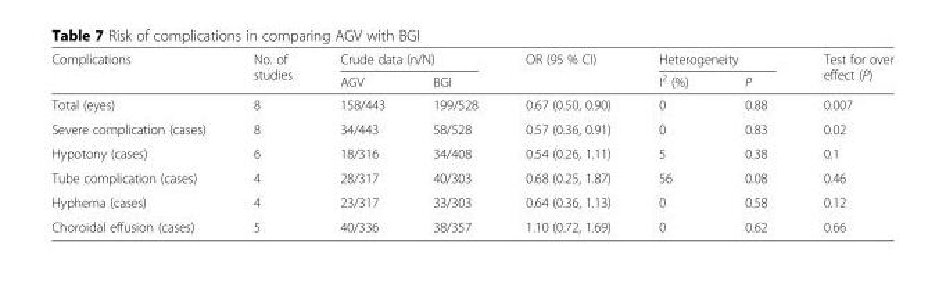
<table><thead><tr><td rowspan="2">Complications</td><td rowspan="2">No. of studies</td><td colspan="2">Crude data (n/N)</td><td rowspan="2">OR (95 % CI)</td><td colspan="2">Heterogeneity</td><td rowspan="2">Test for over effect (P)</td></tr><tr><td>AGV</td><td>BGI</td><td>I<sup>2</sup> (%)</td><td>P</td></tr></thead><tbody><tr><td>Total (eyes)</td><td>8</td><td>158/443</td><td>199/528</td><td>0.67 (0.50, 0.90)</td><td>0</td><td>0.88</td><td>0.007</td></tr><tr><td>Severe complication (cases)</td><td>8</td><td>34/443</td><td>58/528</td><td>0.57 (0.36, 0.91)</td><td>0</td><td>0.83</td><td>0.02</td></tr><tr><td>Hypotony (cases)</td><td>6</td><td>18/316</td><td>34/408</td><td>0.54 (0.26, 1.11)</td><td>5</td><td>0.38</td><td>0.1</td></tr><tr><td>Tube complication (cases)</td><td>4</td><td>28/317</td><td>40/303</td><td>0.68 (0.25, 1.87)</td><td>56</td><td>0.08</td><td>0.46</td></tr><tr><td>Hyphema (cases)</td><td>4</td><td>23/317</td><td>33/303</td><td>0.64 (0.36, 1.13)</td><td>0</td><td>0.58</td><td>0.12</td></tr><tr><td>Choroidal effusion (cases)</td><td>5</td><td>40/336</td><td>38/357</td><td>1.10 (0.72, 1.69)</td><td>0</td><td>0.62</td><td>0.66</td></tr></tbody></table>